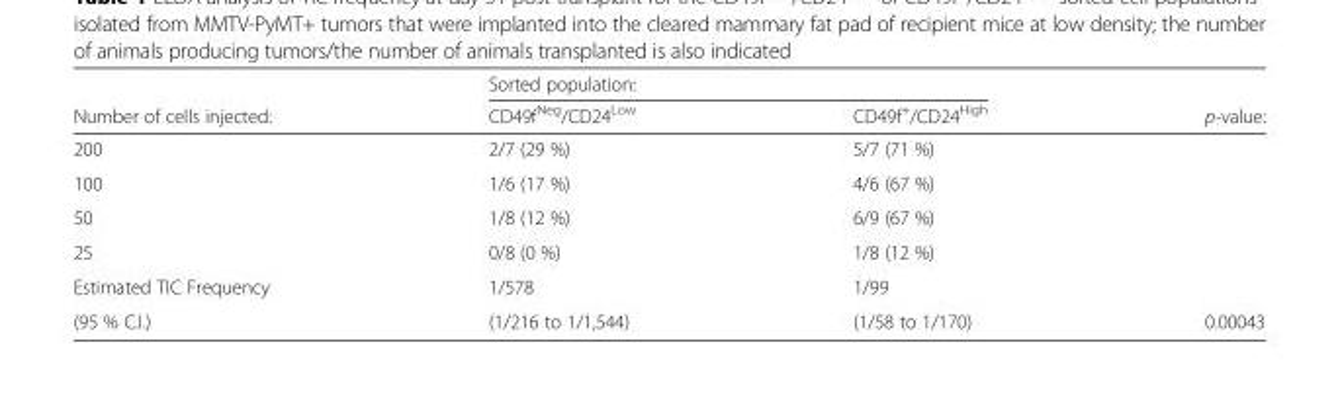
<table><thead><tr><td rowspan="2">Number of cells injected:</td><td colspan="2">Sorted population:</td><td rowspan="2">p-value:</td></tr><tr><td>CD49f<sup>Neg</sup>/CD24<sup>Low</sup></td><td>CD49f<sup>+</sup>/CD24<sup>High</sup></td></tr></thead><tbody><tr><td>200</td><td>2/7 (29 %)</td><td>5/7 (71 %)</td><td></td></tr><tr><td>100</td><td>1/6 (17 %)</td><td>4/6 (67 %)</td><td></td></tr><tr><td>50</td><td>1/8 (12 %)</td><td>6/9 (67 %)</td><td></td></tr><tr><td>25</td><td>0/8 (0 %)</td><td>1/8 (12 %)</td><td></td></tr><tr><td>Estimated TIC Frequency</td><td>1/578</td><td>1/99</td><td></td></tr><tr><td>(95 % C.I.)</td><td>(1/216 to 1/1,544)</td><td>(1/58 to 1/170)</td><td>0.00043</td></tr></tbody></table>